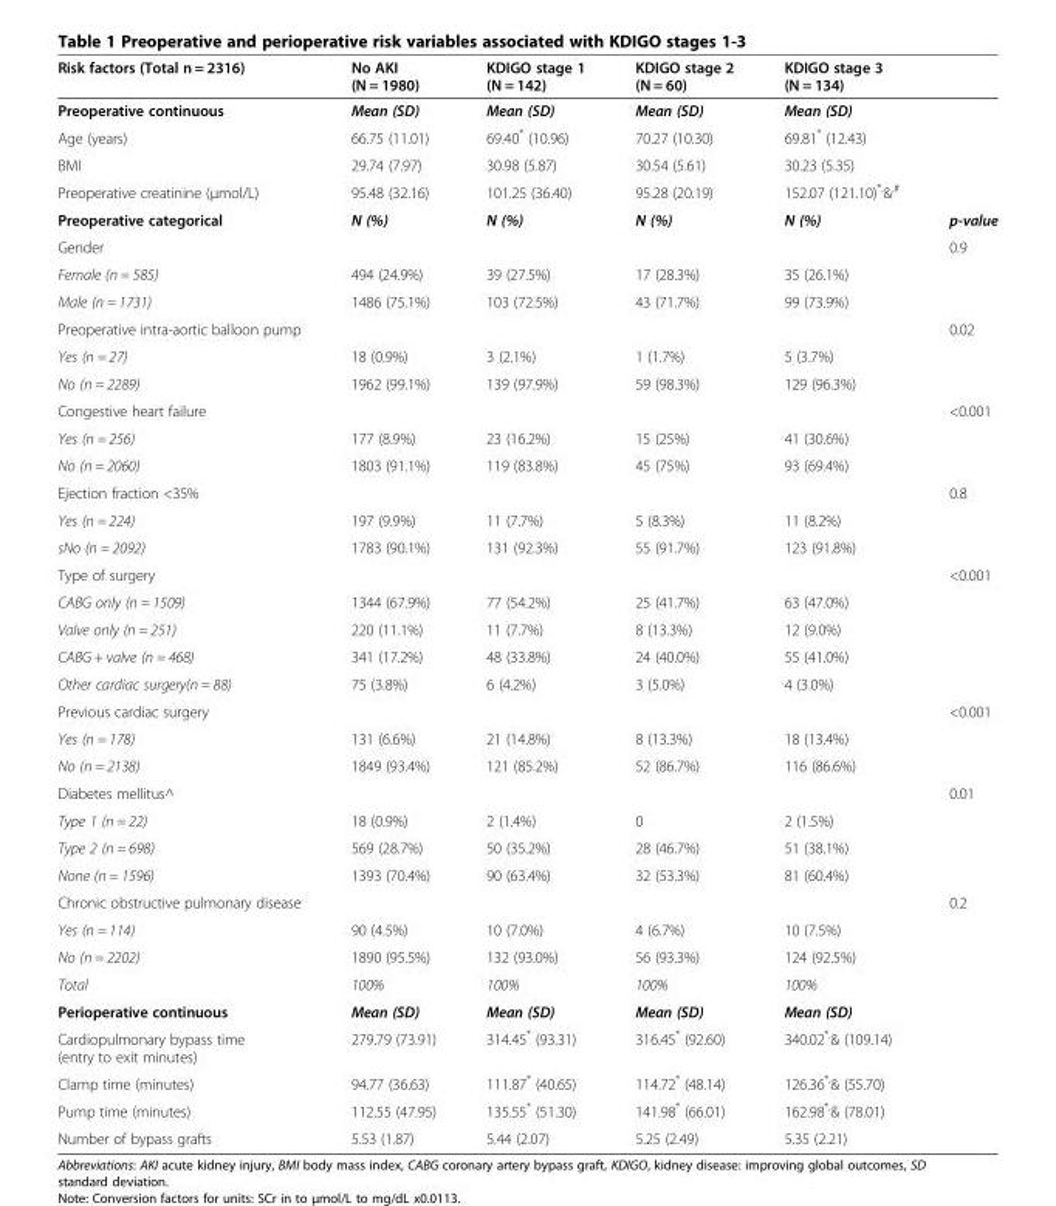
<table><thead><tr><td>Risk factors (Total n = 2316)</td><td>No AKI (N = 1980)</td><td>KDIGO stage 1 (N = 142)</td><td>KDIGO stage 2 (N = 60)</td><td>KDIGO stage 3 (N = 134)</td><td></td></tr></thead><tbody><tr><td>Preoperative continuous</td><td>Mean (SD)</td><td>Mean (SD)</td><td>Mean (SD)</td><td>Mean (SD)</td><td></td></tr><tr><td>Age (years)</td><td>66.75 (11.01)</td><td>69.40* (10.96)</td><td>70.27 (10.30)</td><td>69.81* (12.43)</td><td></td></tr><tr><td>BMI</td><td>29.74 (7.97)</td><td>30.98 (5.87)</td><td>30.54 (5.61)</td><td>30.23 (5.35)</td><td></td></tr><tr><td>Preoperative creatinine (μmol/L)</td><td>95.48 (32.16)</td><td>101.25 (36.40)</td><td>95.28 (20.19)</td><td>152.07 (121.10)<sup>*,</sup>&amp;<sup>,#</sup></td><td></td></tr><tr><td>Preoperative categorical</td><td>N (%)</td><td>N (%)</td><td>N (%)</td><td>N (%)</td><td>p-value</td></tr><tr><td colspan="5">Gender</td><td rowspan="3">0.9</td></tr><tr><td>Female (n = 585)</td><td>494 (24.9%)</td><td>39 (27.5%)</td><td>17 (28.3%)</td><td>35 (26.1%)</td></tr><tr><td>Male (n = 1731)</td><td>1486 (75.1%)</td><td>103 (72.5%)</td><td>43 (71.7%)</td><td>99 (73.9%)</td></tr><tr><td colspan="5">Preoperative intra-aortic balloon pump</td><td rowspan="3">0.02</td></tr><tr><td>Yes (n = 27)</td><td>18 (0.9%)</td><td>3 (2.1%)</td><td>1 (1.7%)</td><td>5 (3.7%)</td></tr><tr><td>No (n = 2289)</td><td>1962 (99.1%)</td><td>139 (97.9%)</td><td>59 (98.3%)</td><td>129 (96.3%)</td></tr><tr><td colspan="5">Congestive heart failure</td><td rowspan="3">&lt;0.001</td></tr><tr><td>Yes (n = 256)</td><td>177 (8.9%)</td><td>23 (16.2%)</td><td>15 (25%)</td><td>41 (30.6%)</td></tr><tr><td>No (n = 2060)</td><td>1803 (91.1%)</td><td>119 (83.8%)</td><td>45 (75%)</td><td>93 (69.4%)</td></tr><tr><td colspan="5">Ejection fraction &lt;35%</td><td rowspan="3">0.8</td></tr><tr><td>Yes (n = 224)</td><td>197 (9.9%)</td><td>11 (7.7%)</td><td>5 (8.3%)</td><td>11 (8.2%)</td></tr><tr><td>sNo (n = 2092)</td><td>1783 (90.1%)</td><td>131 (92.3%)</td><td>55 (91.7%)</td><td>123 (91.8%)</td></tr><tr><td colspan="5">Type of surgery</td><td rowspan="5">&lt;0.001</td></tr><tr><td>CABG only (n = 1509)</td><td>1344 (67.9%)</td><td>77 (54.2%)</td><td>25 (41.7%)</td><td>63 (47.0%)</td></tr><tr><td>Valve only (n = 251)</td><td>220 (11.1%)</td><td>11 (7.7%)</td><td>8 (13.3%)</td><td>12 (9.0%)</td></tr><tr><td>CABG + valve (n = 468)</td><td>341 (17.2%)</td><td>48 (33.8%)</td><td>24 (40.0%)</td><td>55 (41.0%)</td></tr><tr><td>Other cardiac surgery(n = 88)</td><td>75 (3.8%)</td><td>6 (4.2%)</td><td>3 (5.0%)</td><td>4 (3.0%)</td></tr><tr><td colspan="5">Previous cardiac surgery</td><td rowspan="3">&lt;0.001</td></tr><tr><td>Yes (n = 178)</td><td>131 (6.6%)</td><td>21 (14.8%)</td><td>8 (13.3%)</td><td>18 (13.4%)</td></tr><tr><td>No (n = 2138)</td><td>1849 (93.4%)</td><td>121 (85.2%)</td><td>52 (86.7%)</td><td>116 (86.6%)</td></tr><tr><td colspan="5">Diabetes mellitus^</td><td rowspan="4">0.01</td></tr><tr><td>Type 1 (n = 22)</td><td>18 (0.9%)</td><td>2 (1.4%)</td><td>0</td><td>2 (1.5%)</td></tr><tr><td>Type 2 (n = 698)</td><td>569 (28.7%)</td><td>50 (35.2%)</td><td>28 (46.7%)</td><td>51 (38.1%)</td></tr><tr><td>None (n = 1596)</td><td>1393 (70.4%)</td><td>90 (63.4%)</td><td>32 (53.3%)</td><td>81 (60.4%)</td></tr><tr><td colspan="5">Chronic obstructive pulmonary disease</td><td rowspan="3">0.2</td></tr><tr><td>Yes (n = 114)</td><td>90 (4.5%)</td><td>10 (7.0%)</td><td>4 (6.7%)</td><td>10 (7.5%)</td></tr><tr><td>No (n = 2202)</td><td>1890 (95.5%)</td><td>132 (93.0%)</td><td>56 (93.3%)</td><td>124 (92.5%)</td></tr><tr><td>Total</td><td>100%</td><td>100%</td><td>100%</td><td>100%</td><td></td></tr><tr><td>Perioperative continuous</td><td>Mean (SD)</td><td>Mean (SD)</td><td>Mean (SD)</td><td>Mean (SD)</td><td></td></tr><tr><td>Cardiopulmonary bypass time (entry to exit minutes)</td><td>279.79 (73.91)</td><td>314.45* (93.31)</td><td>316.45* (92.60)</td><td>340.02<sup>*,</sup>&amp; (109.14)</td><td></td></tr><tr><td>Clamp time (minutes)</td><td>94.77 (36.63)</td><td>111.87* (40.65)</td><td>114.72* (48.14)</td><td>126.36<sup>*,</sup>&amp; (55.70)</td><td></td></tr><tr><td>Pump time (minutes)</td><td>112.55 (47.95)</td><td>135.55* (51.30)</td><td>141.98* (66.01)</td><td>162.98<sup>*,</sup>&amp; (78.01)</td><td></td></tr><tr><td>Number of bypass grafts</td><td>5.53 (1.87)</td><td>5.44 (2.07)</td><td>5.25 (2.49)</td><td>5.35 (2.21)</td><td></td></tr></tbody></table>